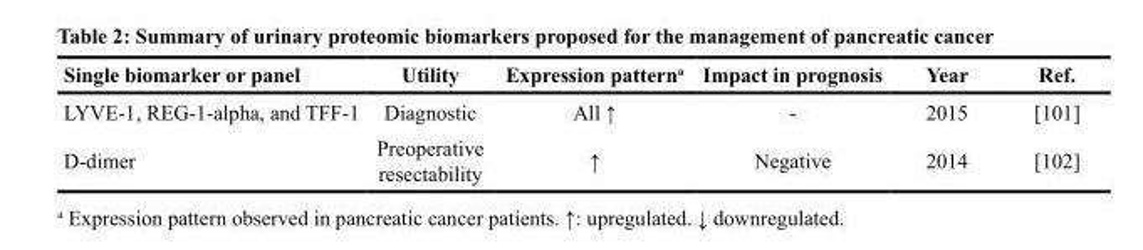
<table><thead><tr><td>Single biomarker or panel</td><td>Utility</td><td>Expression pattern<sup>a</sup></td><td>Impact in prognosis</td><td>Year</td><td>Ref.</td></tr></thead><tbody><tr><td>LYVE-1, REG-1-alpha, and TFF-1</td><td>Diagnostic</td><td>All ↑</td><td>-</td><td>2015</td><td>[101]</td></tr><tr><td>D-dimer</td><td>Preoperative resectability</td><td>↑</td><td>Negative</td><td>2014</td><td>[102]</td></tr></tbody></table>